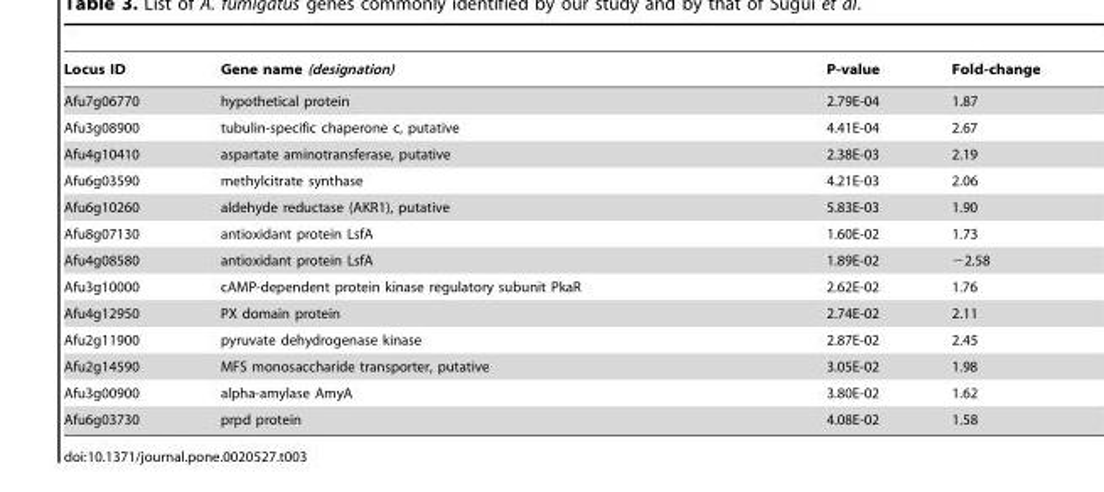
<table><thead><tr><td>Locus ID</td><td>Gene name (designation)</td><td>P-value</td><td>Fold-change</td></tr></thead><tbody><tr><td>Afu7g06770</td><td>hypothetical protein</td><td>2.79E-04</td><td>1.87</td></tr><tr><td>Afu3g08900</td><td>tubulin-specific chaperone c, putative</td><td>4.41E-04</td><td>2.67</td></tr><tr><td>Afu4g10410</td><td>aspartate aminotransferase, putative</td><td>2.38E-03</td><td>2.19</td></tr><tr><td>Afu6g03590</td><td>methylcitrate synthase</td><td>4.21E-03</td><td>2.06</td></tr><tr><td>Afu6g10260</td><td>aldehyde reductase (AKR1), putative</td><td>5.83E-03</td><td>1.90</td></tr><tr><td>Afu8g07130</td><td>antioxidant protein LsfA</td><td>1.60E-02</td><td>1.73</td></tr><tr><td>Afu4g08580</td><td>antioxidant protein LsfA</td><td>1.89E-02</td><td>−2.58</td></tr><tr><td>Afu3g10000</td><td>cAMP-dependent protein kinase regulatory subunit PkaR</td><td>2.62E-02</td><td>1.76</td></tr><tr><td>Afu4g12950</td><td>PX domain protein</td><td>2.74E-02</td><td>2.11</td></tr><tr><td>Afu2g11900</td><td>pyruvate dehydrogenase kinase</td><td>2.87E-02</td><td>2.45</td></tr><tr><td>Afu2g14590</td><td>MFS monosaccharide transporter, putative</td><td>3.05E-02</td><td>1.98</td></tr><tr><td>Afu3g00900</td><td>alpha-amylase AmyA</td><td>3.80E-02</td><td>1.62</td></tr><tr><td>Afu6g03730</td><td>prpd protein</td><td>4.08E-02</td><td>1.58</td></tr></tbody></table>